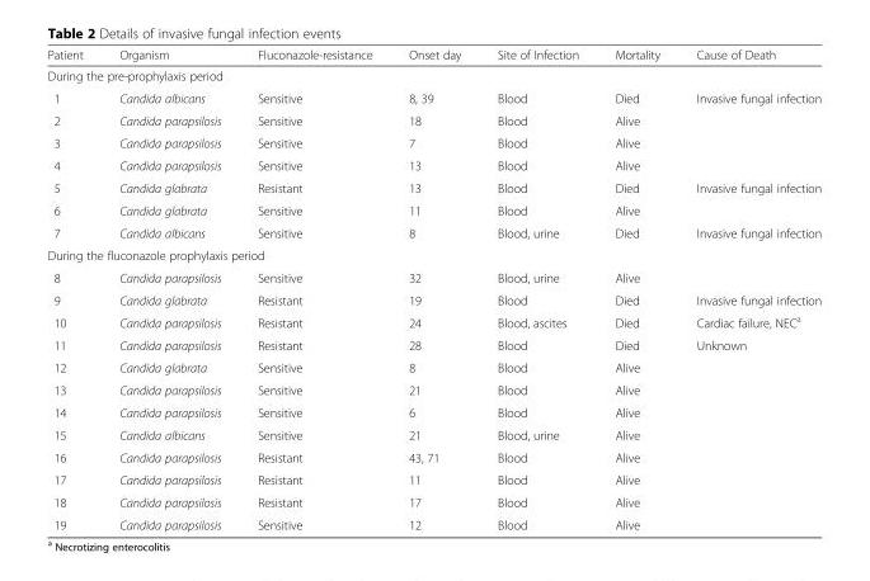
<table><thead><tr><td>Patient</td><td>Organism</td><td>Fluconazole-resistance</td><td>Onset day</td><td>Site of Infection</td><td>Mortality</td><td>Cause of Death</td></tr></thead><tbody><tr><td colspan="7">During the pre-prophylaxis period</td></tr><tr><td>1</td><td>Candida albicans</td><td>Sensitive</td><td>8, 39</td><td>Blood</td><td>Died</td><td>Invasive fungal infection</td></tr><tr><td>2</td><td>Candida parapsilosis</td><td>Sensitive</td><td>18</td><td>Blood</td><td>Alive</td><td></td></tr><tr><td>3</td><td>Candida parapsilosis</td><td>Sensitive</td><td>7</td><td>Blood</td><td>Alive</td><td></td></tr><tr><td>4</td><td>Candida parapsilosis</td><td>Sensitive</td><td>13</td><td>Blood</td><td>Alive</td><td></td></tr><tr><td>5</td><td>Candida glabrata</td><td>Resistant</td><td>13</td><td>Blood</td><td>Died</td><td>Invasive fungal infection</td></tr><tr><td>6</td><td>Candida glabrata</td><td>Sensitive</td><td>11</td><td>Blood</td><td>Alive</td><td></td></tr><tr><td>7</td><td>Candida albicans</td><td>Sensitive</td><td>8</td><td>Blood, urine</td><td>Died</td><td>Invasive fungal infection</td></tr><tr><td colspan="7">During the fluconazole prophylaxis period</td></tr><tr><td>8</td><td>Candida parapsilosis</td><td>Sensitive</td><td>32</td><td>Blood, urine</td><td>Alive</td><td></td></tr><tr><td>9</td><td>Candida glabrata</td><td>Resistant</td><td>19</td><td>Blood</td><td>Died</td><td>Invasive fungal infection</td></tr><tr><td>10</td><td>Candida parapsilosis</td><td>Resistant</td><td>24</td><td>Blood, ascites</td><td>Died</td><td>Cardiac failure, NEC<sup>a</sup></td></tr><tr><td>11</td><td>Candida parapsilosis</td><td>Resistant</td><td>28</td><td>Blood</td><td>Died</td><td>Unknown</td></tr><tr><td>12</td><td>Candida glabrata</td><td>Sensitive</td><td>8</td><td>Blood</td><td>Alive</td><td></td></tr><tr><td>13</td><td>Candida parapsilosis</td><td>Sensitive</td><td>21</td><td>Blood</td><td>Alive</td><td></td></tr><tr><td>14</td><td>Candida parapsilosis</td><td>Sensitive</td><td>6</td><td>Blood</td><td>Alive</td><td></td></tr><tr><td>15</td><td>Candida albicans</td><td>Sensitive</td><td>21</td><td>Blood, urine</td><td>Alive</td><td></td></tr><tr><td>16</td><td>Candida parapsilosis</td><td>Resistant</td><td>43, 71</td><td>Blood</td><td>Alive</td><td></td></tr><tr><td>17</td><td>Candida parapsilosis</td><td>Resistant</td><td>11</td><td>Blood</td><td>Alive</td><td></td></tr><tr><td>18</td><td>Candida parapsilosis</td><td>Resistant</td><td>17</td><td>Blood</td><td>Alive</td><td></td></tr><tr><td>19</td><td>Candida parapsilosis</td><td>Sensitive</td><td>12</td><td>Blood</td><td>Alive</td><td></td></tr></tbody></table>